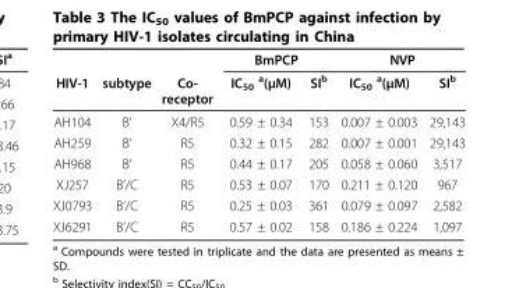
<table><thead><tr><td rowspan="2">HIV-1</td><td rowspan="2">subtype</td><td rowspan="2">Co- receptor</td><td colspan="2">BmPCP</td><td colspan="2">NVP</td></tr><tr><td>IC<sub>50</sub> <sup>a</sup>(μM)</td><td>SI<sup>b</sup></td><td>IC<sub>50</sub> <sup>a</sup>(μM)</td><td>SI<sup>b</sup></td></tr></thead><tbody><tr><td>AH104</td><td>B’</td><td>X4/R5</td><td>0.59 ± 0.34</td><td>153</td><td>0.007 ± 0.003</td><td>29,143</td></tr><tr><td>AH259</td><td>B’</td><td>R5</td><td>0.32 ± 0.15</td><td>282</td><td>0.007 ± 0.001</td><td>29,143</td></tr><tr><td>AH968</td><td>B’</td><td>R5</td><td>0.44 ± 0.17</td><td>205</td><td>0.058 ± 0.060</td><td>3,517</td></tr><tr><td>XJ257</td><td>B’/C</td><td>R5</td><td>0.53 ± 0.07</td><td>170</td><td>0.211 ± 0.120</td><td>967</td></tr><tr><td>XJ0793</td><td>B’/C</td><td>R5</td><td>0.25 ± 0.03</td><td>361</td><td>0.079 ± 0.097</td><td>2,582</td></tr><tr><td>XJ6291</td><td>B’/C</td><td>R5</td><td>0.57 ± 0.02</td><td>158</td><td>0.186 ± 0.224</td><td>1,097</td></tr></tbody></table>